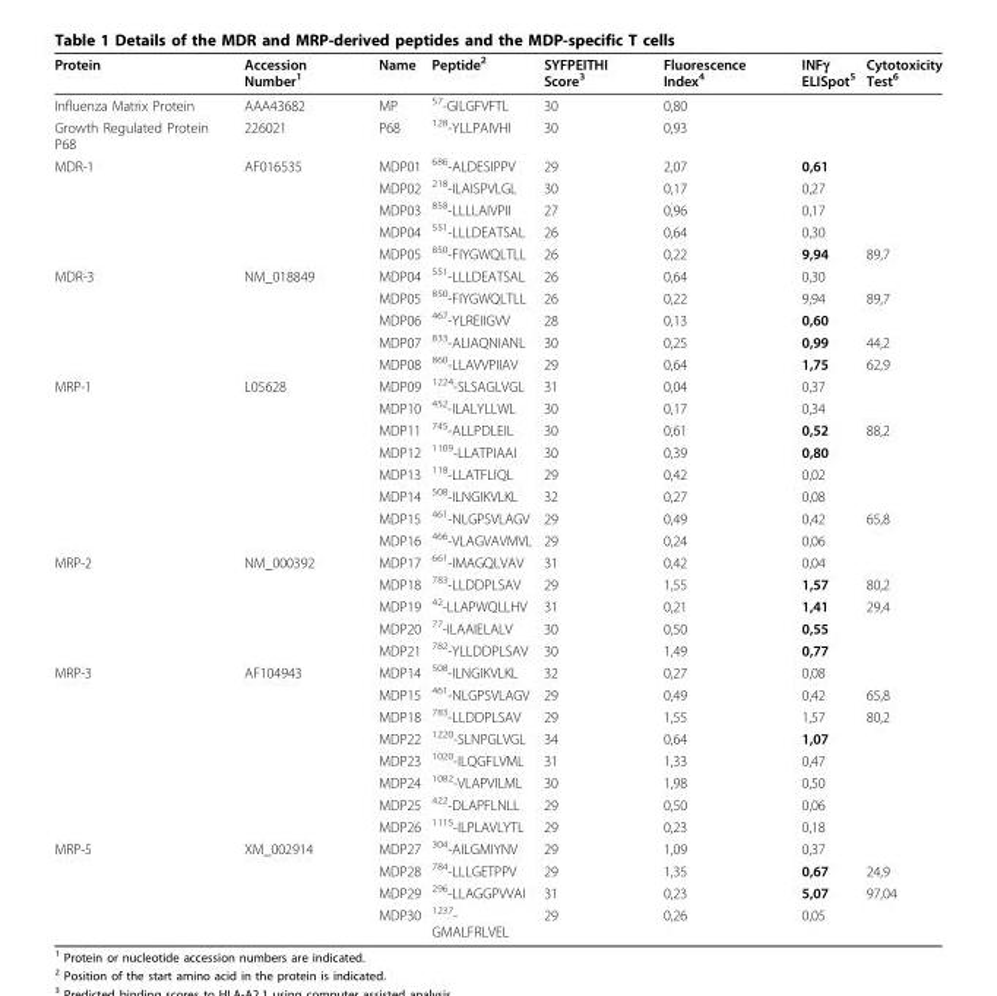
<table><thead><tr><td>Protein</td><td>Accession Number<sup>1</sup></td><td>Name</td><td>Peptide<sup>2</sup></td><td>SYFPEITHI Score<sup>3</sup></td><td>Fluorescence Index<sup>4</sup></td><td>INFγ ELISpot<sup>5</sup></td><td>Cytotoxicity Test<sup>6</sup></td></tr></thead><tbody><tr><td>Influenza Matrix Protein</td><td>AAA43682</td><td>MP</td><td><sup>57</sup>-GILGFVFTL</td><td>30</td><td>0,80</td><td></td><td></td></tr><tr><td>Growth Regulated Protein P68</td><td>226021</td><td>P68</td><td><sup>128</sup>-YLLPAIVHI</td><td>30</td><td>0,93</td><td></td><td></td></tr><tr><td rowspan="5">MDR-1</td><td>AF016535</td><td>MDP01</td><td><sup>686</sup>-ALDESIPPV</td><td>29</td><td>2,07</td><td>0,61</td><td></td></tr><tr><td></td><td>MDP02</td><td><sup>218</sup>-ILAISPVLGL</td><td>30</td><td>0,17</td><td>0,27</td><td></td></tr><tr><td></td><td>MDP03</td><td><sup>858</sup>-LLLLAIVPII</td><td>27</td><td>0,96</td><td>0,17</td><td></td></tr><tr><td></td><td>MDP04</td><td><sup>551</sup>-LLLDEATSAL</td><td>26</td><td>0,64</td><td>0,30</td><td></td></tr><tr><td></td><td>MDP05</td><td><sup>850</sup>-FIYGWQLTLL</td><td>26</td><td>0,22</td><td>9,94</td><td>89,7</td></tr><tr><td rowspan="5">MDR-3</td><td>NM_018849</td><td>MDP04</td><td><sup>551</sup>-LLLDEATSAL</td><td>26</td><td>0,64</td><td>0,30</td><td></td></tr><tr><td></td><td>MDP05</td><td><sup>850</sup>-FIYGWQLTLL</td><td>26</td><td>0,22</td><td>9,94</td><td>89,7</td></tr><tr><td></td><td>MDP06</td><td><sup>467</sup>-YLREIIGVV</td><td>28</td><td>0,13</td><td>0,60</td><td></td></tr><tr><td></td><td>MDP07</td><td><sup>833</sup>-ALIAQNIANL</td><td>30</td><td>0,25</td><td>0,99</td><td>44,2</td></tr><tr><td></td><td>MDP08</td><td><sup>860</sup>-LLAVVPIIAV</td><td>29</td><td>0,64</td><td>1,75</td><td>62,9</td></tr><tr><td rowspan="8">MRP-1</td><td>L05628</td><td>MDP09</td><td><sup>1224</sup>-SLSAGLVGL</td><td>31</td><td>0,04</td><td>0,37</td><td></td></tr><tr><td></td><td>MDP10</td><td><sup>452</sup>-ILALYLLWL</td><td>30</td><td>0,17</td><td>0,34</td><td></td></tr><tr><td></td><td>MDP11</td><td><sup>745</sup>-ALLPDLEIL</td><td>30</td><td>0,61</td><td>0,52</td><td>88,2</td></tr><tr><td></td><td>MDP12</td><td><sup>1109</sup>-LLATPIAAI</td><td>30</td><td>0,39</td><td>0,80</td><td></td></tr><tr><td></td><td>MDP13</td><td><sup>118</sup>-LLATFLIQL</td><td>29</td><td>0,42</td><td>0,02</td><td></td></tr><tr><td></td><td>MDP14</td><td><sup>508</sup>-ILNGIKVLKL</td><td>32</td><td>0,27</td><td>0,08</td><td></td></tr><tr><td></td><td>MDP15</td><td><sup>461</sup>-NLGPSVLAGV</td><td>29</td><td>0,49</td><td>0,42</td><td>65,8</td></tr><tr><td></td><td>MDP16</td><td><sup>466</sup>-VLAGVAVMVL</td><td>29</td><td>0,24</td><td>0,06</td><td></td></tr><tr><td rowspan="5">MRP-2</td><td>NM_000392</td><td>MDP17</td><td><sup>661</sup>-IMAGQLVAV</td><td>31</td><td>0,42</td><td>0,04</td><td></td></tr><tr><td></td><td>MDP18</td><td><sup>783</sup>-LLDDPLSAV</td><td>29</td><td>1,55</td><td>1,57</td><td>80,2</td></tr><tr><td></td><td>MDP19</td><td><sup>42</sup>-LLAPWQLLHV</td><td>31</td><td>0,21</td><td>1,41</td><td>29,4</td></tr><tr><td></td><td>MDP20</td><td><sup>77</sup>-ILAAIELALV</td><td>30</td><td>0,50</td><td>0,55</td><td></td></tr><tr><td></td><td>MDP21</td><td><sup>782</sup>-YLLDDPLSAV</td><td>30</td><td>1,49</td><td>0,77</td><td></td></tr><tr><td rowspan="8">MRP-3</td><td>AF104943</td><td>MDP14</td><td><sup>508</sup>-ILNGIKVLKL</td><td>32</td><td>0,27</td><td>0,08</td><td></td></tr><tr><td></td><td>MDP15</td><td><sup>461</sup>-NLGPSVLAGV</td><td>29</td><td>0,49</td><td>0,42</td><td>65,8</td></tr><tr><td></td><td>MDP18</td><td><sup>783</sup>-LLDDPLSAV</td><td>29</td><td>1,55</td><td>1,57</td><td>80,2</td></tr><tr><td></td><td>MDP22</td><td><sup>1220</sup>-SLNPGLVGL</td><td>34</td><td>0,64</td><td>1,07</td><td></td></tr><tr><td></td><td>MDP23</td><td><sup>1020</sup>-ILQGFLVML</td><td>31</td><td>1,33</td><td>0,47</td><td></td></tr><tr><td></td><td>MDP24</td><td><sup>1082</sup>-VLAPVILML</td><td>30</td><td>1,98</td><td>0,50</td><td></td></tr><tr><td></td><td>MDP25</td><td><sup>422</sup>-DLAPFLNLL</td><td>29</td><td>0,50</td><td>0,06</td><td></td></tr><tr><td></td><td>MDP26</td><td><sup>1115</sup>-ILPLAVLYTL</td><td>29</td><td>0,23</td><td>0,18</td><td></td></tr><tr><td rowspan="4">MRP-5</td><td>XM_002914</td><td>MDP27</td><td><sup>304</sup>-AILGMIYNV</td><td>29</td><td>1,09</td><td>0,37</td><td></td></tr><tr><td></td><td>MDP28</td><td><sup>784</sup>-LLLGETPPV</td><td>29</td><td>1,35</td><td>0,67</td><td>24,9</td></tr><tr><td></td><td>MDP29</td><td><sup>296</sup>-LLAGGPVVAI</td><td>31</td><td>0,23</td><td>5,07</td><td>97,04</td></tr><tr><td></td><td>MDP30</td><td><sup>1237</sup>- GMALFRLVEL</td><td>29</td><td>0,26</td><td>0,05</td><td></td></tr></tbody></table>